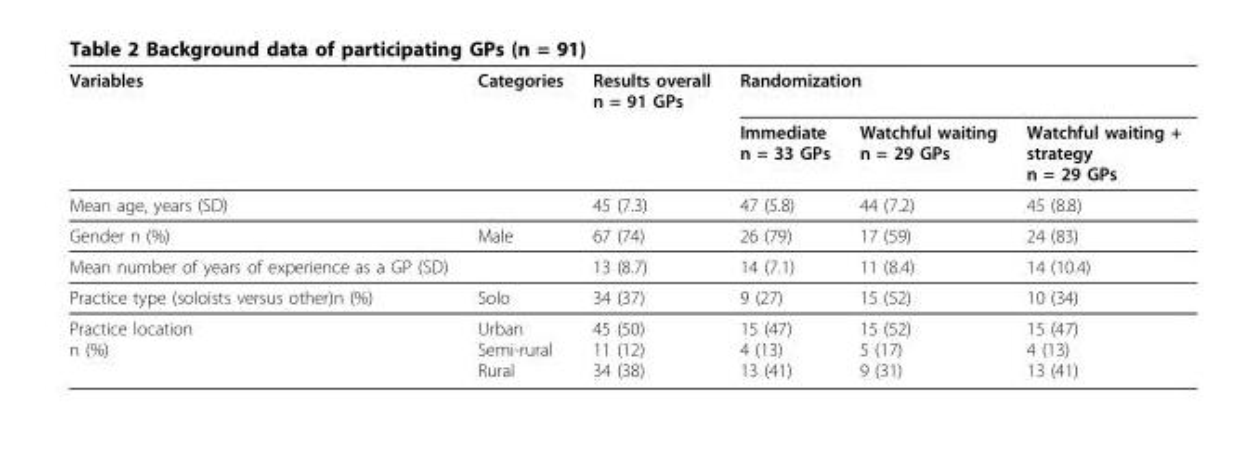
<table><thead><tr><td rowspan="2">Variables</td><td rowspan="2">Categories</td><td rowspan="2">Results overall n = 91 GPs</td><td colspan="3">Randomization</td></tr><tr><td>Immediate n = 33 GPs</td><td>Watchful waiting n = 29 GPs</td><td>Watchful waiting + strategy n = 29 GPs</td></tr></thead><tbody><tr><td>Mean age, years (SD)</td><td></td><td>45 (7.3)</td><td>47 (5.8)</td><td>44 (7.2)</td><td>45 (8.8)</td></tr><tr><td>Gender n (%)</td><td>Male</td><td>67 (74)</td><td>26 (79)</td><td>17 (59)</td><td>24 (83)</td></tr><tr><td>Mean number of years of experience as a GP (SD)</td><td></td><td>13 (8.7)</td><td>14 (7.1)</td><td>11 (8.4)</td><td>14 (10.4)</td></tr><tr><td>Practice type (soloists versus other)n (%)</td><td>Solo</td><td>34 (37)</td><td>9 (27)</td><td>15 (52)</td><td>10 (34)</td></tr><tr><td>Practice location n (%)</td><td>Urban Semi-rural Rural</td><td>45 (50) 11 (12) 34 (38)</td><td>15 (47) 4 (13) 13 (41)</td><td>15 (52) 5 (17) 9 (31)</td><td>15 (47) 4 (13) 13 (41)</td></tr></tbody></table>